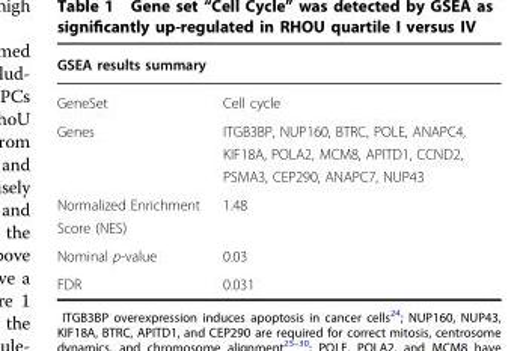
<table><thead><tr><td colspan="2">GSEA results summary</td></tr><tr><td>GeneSet</td><td>Cell cycle</td></tr></thead><tbody><tr><td>Genes</td><td>ITGB3BP, NUP160, BTRC, POLE, ANAPC4, KIF18A, POLA2, MCM8, APITD1, CCND2, PSMA3, CEP290, ANAPC7, NUP43</td></tr><tr><td>Normalized Enrichment Score (NES)</td><td>1.48</td></tr><tr><td>Nominal p-value</td><td>0.03</td></tr><tr><td>FDR</td><td>0.031</td></tr></tbody></table>